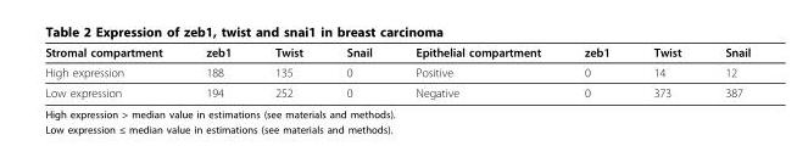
<table><thead><tr><td>Stromal compartment</td><td>zeb1</td><td>Twist</td><td>Snail</td><td>Epithelial compartment</td><td>zeb1</td><td>Twist</td><td>Snail</td></tr></thead><tbody><tr><td>High expression</td><td>188</td><td>135</td><td>0</td><td>Positive</td><td>0</td><td>14</td><td>12</td></tr><tr><td>Low expression</td><td>194</td><td>252</td><td>0</td><td>Negative</td><td>0</td><td>373</td><td>387</td></tr></tbody></table>